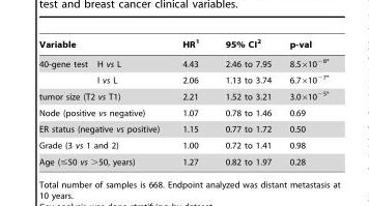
<table><thead><tr><td colspan="2">Variable</td><td rowspan="2">HR<sup>1</sup> 4.43</td><td rowspan="2">95% CI<sup>2</sup> 2.46 to 7.95</td><td rowspan="2">p-val 8.5×10<sup>−8</sup>*</td></tr><tr><td>40-gene test</td><td>H vs L</td></tr></thead><tbody><tr><td></td><td>I vs L</td><td>2.06</td><td>1.13 to 3.74</td><td>6.7×10<sup>−7</sup>*</td></tr><tr><td colspan="2">tumor size (T2 vs T1)</td><td>2.21</td><td>1.52 to 3.21</td><td>3.0×10<sup>−5</sup>*</td></tr><tr><td colspan="2">Node (positive vs negative)</td><td>1.07</td><td>0.78 to 1.46</td><td>0.69</td></tr><tr><td colspan="2">ER status (negative vs positive)</td><td>1.15</td><td>0.77 to 1.72</td><td>0.50</td></tr><tr><td colspan="2">Grade (3 vs 1 and 2)</td><td>1.00</td><td>0.72 to 1.41</td><td>0.98</td></tr><tr><td colspan="2">Age (≤50 vs &gt;50, years)</td><td>1.27</td><td>0.82 to 1.97</td><td>0.28</td></tr></tbody></table>